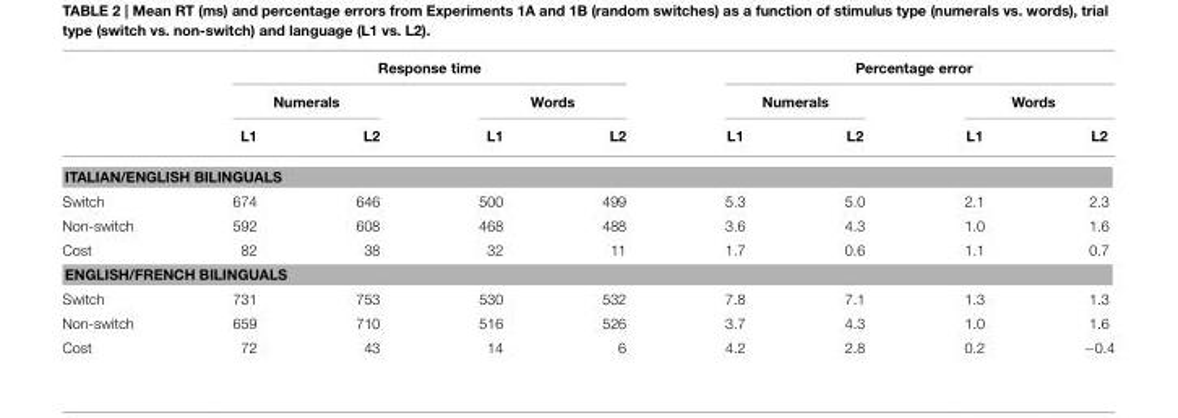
<table><thead><tr><td rowspan="3"></td><td colspan="4">Response time</td><td colspan="4">Percentage error</td></tr><tr><td colspan="2">Numerals</td><td colspan="2">Words</td><td colspan="2">Numerals</td><td colspan="2">Words</td></tr><tr><td>L1</td><td>L2</td><td>L1</td><td>L2</td><td>L1</td><td>L2</td><td>L1</td><td>L2</td></tr></thead><tbody><tr><td colspan="9">ITALIAN/ENGLISH BILINGUALS</td></tr><tr><td>Switch</td><td>674</td><td>646</td><td>500</td><td>499</td><td>5.3</td><td>5.0</td><td>2.1</td><td>2.3</td></tr><tr><td>Non-switch</td><td>592</td><td>608</td><td>468</td><td>488</td><td>3.6</td><td>4.3</td><td>1.0</td><td>1.6</td></tr><tr><td>Cost</td><td>82</td><td>38</td><td>32</td><td>11</td><td>1.7</td><td>0.6</td><td>1.1</td><td>0.7</td></tr><tr><td colspan="9">ENGLISH/FRENCH BILINGUALS</td></tr><tr><td>Switch</td><td>731</td><td>753</td><td>530</td><td>532</td><td>7.8</td><td>7.1</td><td>1.3</td><td>1.3</td></tr><tr><td>Non-switch</td><td>659</td><td>710</td><td>516</td><td>526</td><td>3.7</td><td>4.3</td><td>1.0</td><td>1.6</td></tr><tr><td>Cost</td><td>72</td><td>43</td><td>14</td><td>6</td><td>4.2</td><td>2.8</td><td>0.2</td><td>−0.4</td></tr></tbody></table>